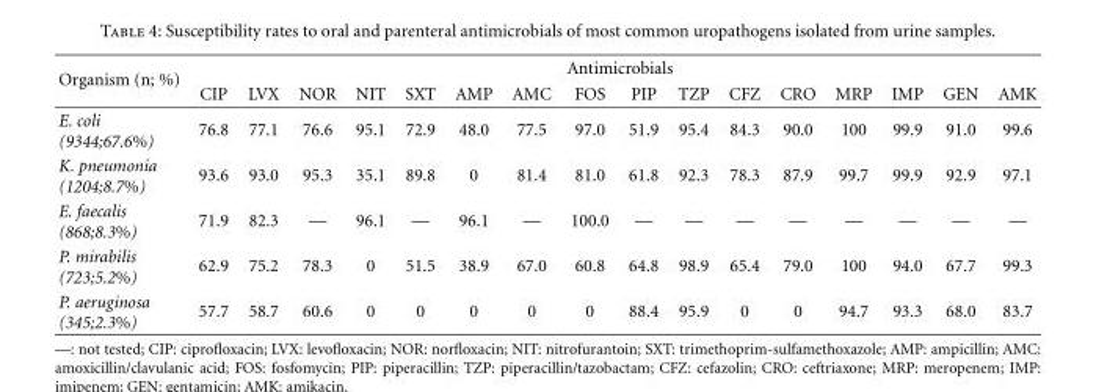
<table><thead><tr><td rowspan="2">Organism (n; %)</td><td colspan="16">Antimicrobials</td></tr><tr><td>CIP</td><td>LVX</td><td>NOR</td><td>NIT</td><td>SXT</td><td>AMP</td><td>AMC</td><td>FOS</td><td>PIP</td><td>TZP</td><td>CFZ</td><td>CRO</td><td>MRP</td><td>IMP</td><td>GEN</td><td>AMK</td></tr></thead><tbody><tr><td>E. coli (9344;67.6%)</td><td>76.8</td><td>77.1</td><td>76.6</td><td>95.1</td><td>72.9</td><td>48.0</td><td>77.5</td><td>97.0</td><td>51.9</td><td>95.4</td><td>84.3</td><td>90.0</td><td>100</td><td>99.9</td><td>91.0</td><td>99.6</td></tr><tr><td>K. pneumonia (1204;8.7%)</td><td>93.6</td><td>93.0</td><td>95.3</td><td>35.1</td><td>89.8</td><td>0</td><td>81.4</td><td>81.0</td><td>61.8</td><td>92.3</td><td>78.3</td><td>87.9</td><td>99.7</td><td>99.9</td><td>92.9</td><td>97.1</td></tr><tr><td>E. faecalis (868;8.3%)</td><td>71.9</td><td>82.3</td><td>—</td><td>96.1</td><td>—</td><td>96.1</td><td>—</td><td>100.0</td><td>—</td><td>—</td><td>—</td><td>—</td><td>—</td><td>—</td><td>—</td><td>—</td></tr><tr><td>P. mirabilis (723;5.2%)</td><td>62.9</td><td>75.2</td><td>78.3</td><td>0</td><td>51.5</td><td>38.9</td><td>67.0</td><td>60.8</td><td>64.8</td><td>98.9</td><td>65.4</td><td>79.0</td><td>100</td><td>94.0</td><td>67.7</td><td>99.3</td></tr><tr><td>P. aeruginosa (345;2.3%)</td><td>57.7</td><td>58.7</td><td>60.6</td><td>0</td><td>0</td><td>0</td><td>0</td><td>0</td><td>88.4</td><td>95.9</td><td>0</td><td>0</td><td>94.7</td><td>93.3</td><td>68.0</td><td>83.7</td></tr></tbody></table>